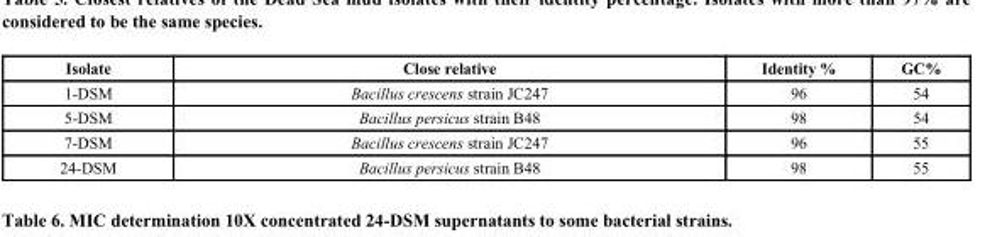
<table><thead><tr><td>Isolate</td><td>Close relative</td><td>Identity %</td><td>GC%</td></tr></thead><tbody><tr><td>1-DSM</td><td>Bacillus crescens strain JC247</td><td>96</td><td>54</td></tr><tr><td>5-DSM</td><td>Bacillus persicus strain B48</td><td>98</td><td>54</td></tr><tr><td>7-DSM</td><td>Bacillus crescens strain JC247</td><td>96</td><td>55</td></tr><tr><td>24-DSM</td><td>Bacillus persicus strain B48</td><td>98</td><td>55</td></tr></tbody></table>